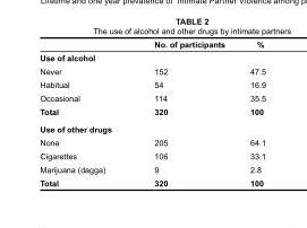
<table><thead><tr><td></td><td>No. of participants</td><td>%</td></tr></thead><tbody><tr><td colspan="3">Use of alcohol</td></tr><tr><td>Never</td><td>152</td><td>47.5</td></tr><tr><td>Habitual</td><td>54</td><td>16.9</td></tr><tr><td>Occasional</td><td>114</td><td>35.5</td></tr><tr><td>Total</td><td>320</td><td>100</td></tr><tr><td colspan="3">Use of other drugs</td></tr><tr><td>None</td><td>205</td><td>64.1</td></tr><tr><td>Cigarettes</td><td>106</td><td>33.1</td></tr><tr><td>Marijuana (dagga)</td><td>9</td><td>2.8</td></tr><tr><td>Total</td><td>320</td><td>100</td></tr></tbody></table>